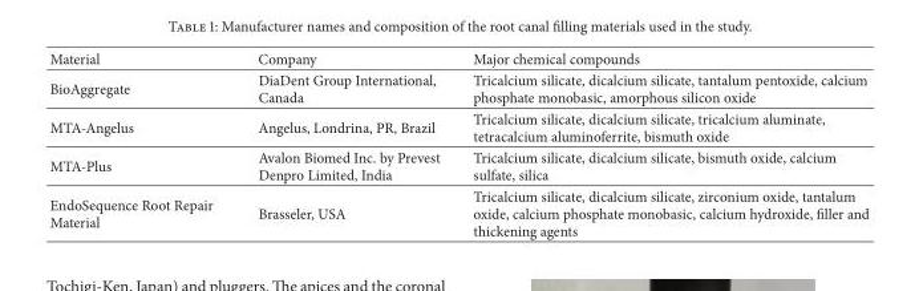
<table><thead><tr><td>Material</td><td>Company</td><td>Major chemical compounds</td></tr></thead><tbody><tr><td>BioAggregate</td><td>DiaDent Group International, Canada</td><td>Tricalcium silicate, dicalcium silicate, tantalum pentoxide, calcium phosphate monobasic, amorphous silicon oxide</td></tr><tr><td>MTA-Angelus</td><td>Angelus, Londrina, PR, Brazil</td><td>Tricalcium silicate, dicalcium silicate, tricalcium aluminate, tetracalcium aluminoferrite, bismuth oxide</td></tr><tr><td>MTA-Plus</td><td>Avalon Biomed Inc. by Prevest Denpro Limited, India</td><td>Tricalcium silicate, dicalcium silicate, bismuth oxide, calcium sulfate, silica</td></tr><tr><td>EndoSequence Root Repair Material</td><td>Brasseler, USA</td><td>Tricalcium silicate, dicalcium silicate, zirconium oxide, tantalum oxide, calcium phosphate monobasic, calcium hydroxide, filler and thickening agents</td></tr></tbody></table>